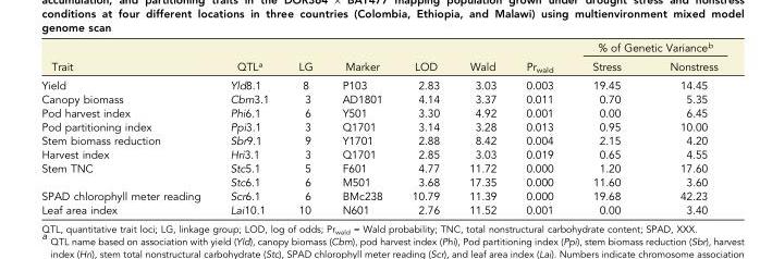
<table><thead><tr><td rowspan="2">Trait</td><td rowspan="2">QTL<sup>a</sup></td><td rowspan="2">LG</td><td rowspan="2">Marker</td><td rowspan="2">LOD</td><td rowspan="2">Wald</td><td rowspan="2">Pr<sub>wald</sub></td><td colspan="2">% of Genetic Variance<sup>b</sup></td></tr><tr><td>Stress</td><td>Nonstress</td></tr></thead><tbody><tr><td>Yield</td><td>Yld8.1</td><td>8</td><td>P103</td><td>2.83</td><td>3.03</td><td>0.003</td><td>19.45</td><td>14.45</td></tr><tr><td>Canopy biomass</td><td>Cbm3.1</td><td>3</td><td>AD1801</td><td>4.14</td><td>3.37</td><td>0.011</td><td>0.70</td><td>5.35</td></tr><tr><td>Pod harvest index</td><td>Phi6.1</td><td>6</td><td>Y501</td><td>3.30</td><td>4.92</td><td>0.001</td><td>0.00</td><td>6.45</td></tr><tr><td>Pod partitioning index</td><td>Ppi3.1</td><td>3</td><td>Q1701</td><td>3.14</td><td>3.28</td><td>0.013</td><td>0.95</td><td>10.00</td></tr><tr><td>Stem biomass reduction</td><td>Sbr9.1</td><td>9</td><td>Y1701</td><td>2.88</td><td>8.42</td><td>0.004</td><td>2.15</td><td>4.20</td></tr><tr><td>Harvest index</td><td>Hri3.1</td><td>3</td><td>Q1701</td><td>2.85</td><td>3.03</td><td>0.019</td><td>0.65</td><td>4.55</td></tr><tr><td rowspan="2">Stem TNC</td><td>Stc5.1</td><td>5</td><td>F601</td><td>4.77</td><td>11.72</td><td>0.000</td><td>1.20</td><td>17.60</td></tr><tr><td>Stc6.1</td><td>6</td><td>M501</td><td>3.68</td><td>17.35</td><td>0.000</td><td>11.60</td><td>3.60</td></tr><tr><td>SPAD chlorophyll meter reading</td><td>Scr6.1</td><td>6</td><td>BMc238</td><td>10.79</td><td>11.39</td><td>0.000</td><td>19.68</td><td>42.23</td></tr><tr><td>Leaf area index</td><td>Lai10.1</td><td>10</td><td>N601</td><td>2.76</td><td>11.52</td><td>0.001</td><td>0.00</td><td>3.40</td></tr></tbody></table>